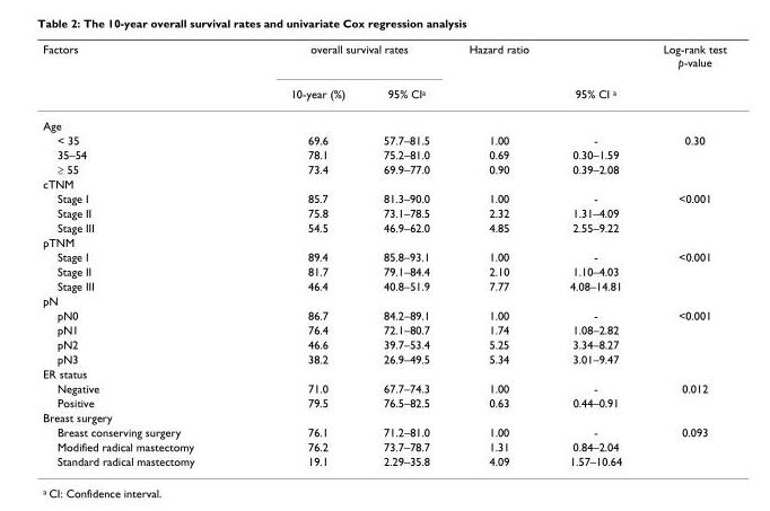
<table><thead><tr><td rowspan="2">Factors</td><td colspan="2">overall survival rates</td><td rowspan="2">Hazard ratio</td><td rowspan="2">95% CI <sup>a</sup></td><td rowspan="2">Log-rank test p-value</td></tr><tr><td>10-year (%)</td><td>95% CI<sup>a</sup></td></tr></thead><tbody><tr><td colspan="6">Age</td></tr><tr><td>&lt; 35</td><td>69.6</td><td>57.7–81.5</td><td>1.00</td><td>-</td><td>0.30</td></tr><tr><td>35–54</td><td>78.1</td><td>75.2–81.0</td><td>0.69</td><td>0.30–1.59</td><td></td></tr><tr><td>≥ 55</td><td>73.4</td><td>69.9–77.0</td><td>0.90</td><td>0.39–2.08</td><td></td></tr><tr><td colspan="6">cTNM</td></tr><tr><td>Stage I</td><td>85.7</td><td>81.3–90.0</td><td>1.00</td><td>-</td><td>&lt;0.001</td></tr><tr><td>Stage II</td><td>75.8</td><td>73.1–78.5</td><td>2.32</td><td>1.31–4.09</td><td></td></tr><tr><td>Stage III</td><td>54.5</td><td>46.9–62.0</td><td>4.85</td><td>2.55–9.22</td><td></td></tr><tr><td colspan="6">pTNM</td></tr><tr><td>Stage I</td><td>89.4</td><td>85.8–93.1</td><td>1.00</td><td>-</td><td>&lt;0.001</td></tr><tr><td>Stage II</td><td>81.7</td><td>79.1–84.4</td><td>2.10</td><td>1.10–4.03</td><td></td></tr><tr><td>Stage III</td><td>46.4</td><td>40.8–51.9</td><td>7.77</td><td>4.08–14.81</td><td></td></tr><tr><td colspan="6">pN</td></tr><tr><td>pN0</td><td>86.7</td><td>84.2–89.1</td><td>1.00</td><td>-</td><td>&lt;0.001</td></tr><tr><td>pN1</td><td>76.4</td><td>72.1–80.7</td><td>1.74</td><td>1.08–2.82</td><td></td></tr><tr><td>pN2</td><td>46.6</td><td>39.7–53.4</td><td>5.25</td><td>3.34–8.27</td><td></td></tr><tr><td>pN3</td><td>38.2</td><td>26.9–49.5</td><td>5.34</td><td>3.01–9.47</td><td></td></tr><tr><td colspan="6">ER status</td></tr><tr><td>Negative</td><td>71.0</td><td>67.7–74.3</td><td>1.00</td><td>-</td><td>0.012</td></tr><tr><td>Positive</td><td>79.5</td><td>76.5–82.5</td><td>0.63</td><td>0.44–0.91</td><td></td></tr><tr><td colspan="6">Breast surgery</td></tr><tr><td>Breast conserving surgery</td><td>76.1</td><td>71.2–81.0</td><td>1.00</td><td>-</td><td>0.093</td></tr><tr><td>Modified radical mastectomy</td><td>76.2</td><td>73.7–78.7</td><td>1.31</td><td>0.84–2.04</td><td></td></tr><tr><td>Standard radical mastectomy</td><td>19.1</td><td>2.29–35.8</td><td>4.09</td><td>1.57–10.64</td><td></td></tr></tbody></table>